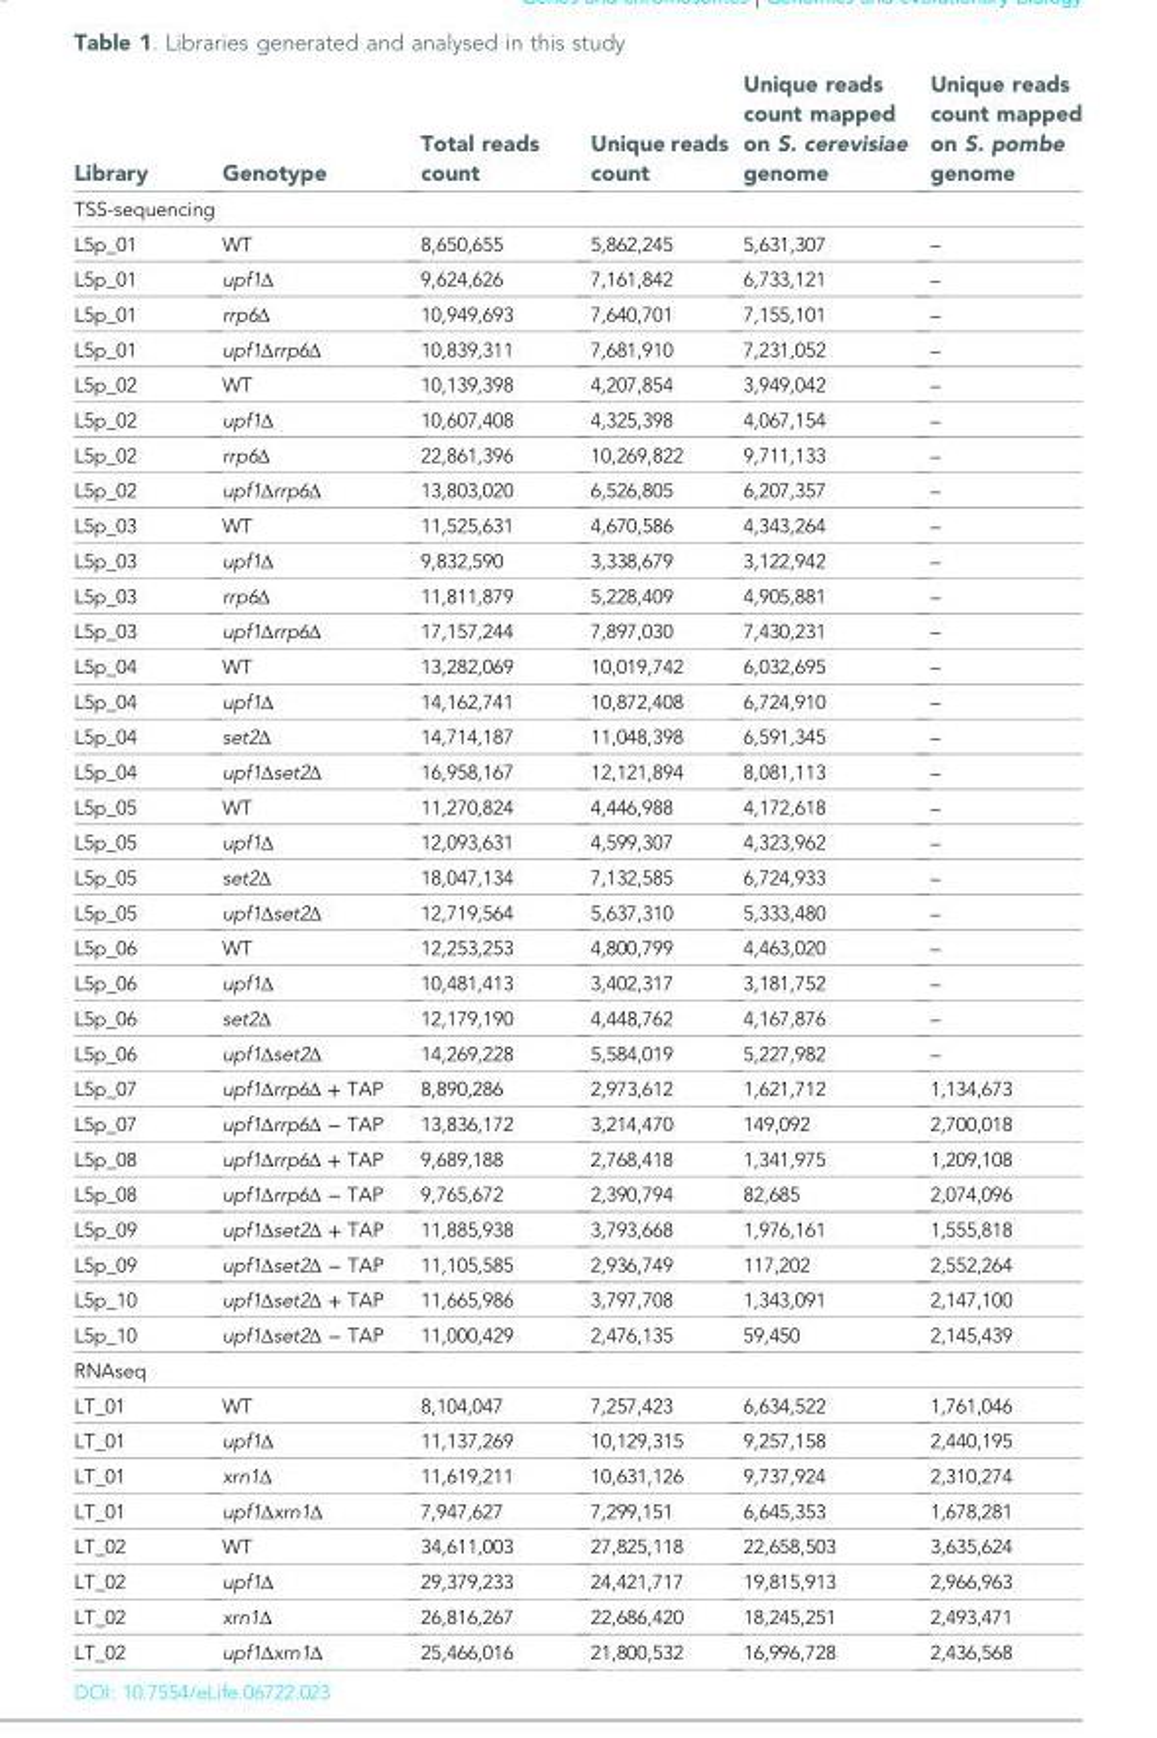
<table><thead><tr><td>Library</td><td>Genotype</td><td>Total reads count</td><td>Unique reads count</td><td>Unique reads count mapped on S. cerevisiae genome</td><td>Unique reads count mapped on S. pombe genome</td></tr></thead><tbody><tr><td colspan="6">TSS-sequencing</td></tr><tr><td>L5p_01</td><td>WT</td><td>8,650,655</td><td>5,862,245</td><td>5,631,307</td><td>–</td></tr><tr><td>L5p_01</td><td>upf1Δ</td><td>9,624,626</td><td>7,161,842</td><td>6,733,121</td><td>–</td></tr><tr><td>L5p_01</td><td>rrp6Δ</td><td>10,949,693</td><td>7,640,701</td><td>7,155,101</td><td>–</td></tr><tr><td>L5p_01</td><td>upf1Δrrp6Δ</td><td>10,839,311</td><td>7,681,910</td><td>7,231,052</td><td>–</td></tr><tr><td>L5p_02</td><td>WT</td><td>10,139,398</td><td>4,207,854</td><td>3,949,042</td><td>–</td></tr><tr><td>L5p_02</td><td>upf1Δ</td><td>10,607,408</td><td>4,325,398</td><td>4,067,154</td><td>–</td></tr><tr><td>L5p_02</td><td>rrp6Δ</td><td>22,861,396</td><td>10,269,822</td><td>9,711,133</td><td>–</td></tr><tr><td>L5p_02</td><td>upf1Δrrp6Δ</td><td>13,803,020</td><td>6,526,805</td><td>6,207,357</td><td>–</td></tr><tr><td>L5p_03</td><td>WT</td><td>11,525,631</td><td>4,670,586</td><td>4,343,264</td><td>–</td></tr><tr><td>L5p_03</td><td>upf1Δ</td><td>9,832,590</td><td>3,338,679</td><td>3,122,942</td><td>–</td></tr><tr><td>L5p_03</td><td>rrp6Δ</td><td>11,811,879</td><td>5,228,409</td><td>4,905,881</td><td>–</td></tr><tr><td>L5p_03</td><td>upf1Δrrp6Δ</td><td>17,157,244</td><td>7,897,030</td><td>7,430,231</td><td>–</td></tr><tr><td>L5p_04</td><td>WT</td><td>13,282,069</td><td>10,019,742</td><td>6,032,695</td><td>–</td></tr><tr><td>L5p_04</td><td>upf1Δ</td><td>14,162,741</td><td>10,872,408</td><td>6,724,910</td><td>–</td></tr><tr><td>L5p_04</td><td>set2Δ</td><td>14,714,187</td><td>11,048,398</td><td>6,591,345</td><td>–</td></tr><tr><td>L5p_04</td><td>upf1Δset2Δ</td><td>16,958,167</td><td>12,121,894</td><td>8,081,113</td><td>–</td></tr><tr><td>L5p_05</td><td>WT</td><td>11,270,824</td><td>4,446,988</td><td>4,172,618</td><td>–</td></tr><tr><td>L5p_05</td><td>upf1Δ</td><td>12,093,631</td><td>4,599,307</td><td>4,323,962</td><td>–</td></tr><tr><td>L5p_05</td><td>set2Δ</td><td>18,047,134</td><td>7,132,585</td><td>6,724,933</td><td>–</td></tr><tr><td>L5p_05</td><td>upf1Δset2Δ</td><td>12,719,564</td><td>5,637,310</td><td>5,333,480</td><td>–</td></tr><tr><td>L5p_06</td><td>WT</td><td>12,253,253</td><td>4,800,799</td><td>4,463,020</td><td>–</td></tr><tr><td>L5p_06</td><td>upf1Δ</td><td>10,481,413</td><td>3,402,317</td><td>3,181,752</td><td>–</td></tr><tr><td>L5p_06</td><td>set2Δ</td><td>12,179,190</td><td>4,448,762</td><td>4,167,876</td><td>–</td></tr><tr><td>L5p_06</td><td>upf1Δset2Δ</td><td>14,269,228</td><td>5,584,019</td><td>5,227,982</td><td>–</td></tr><tr><td>L5p_07</td><td>upf1Δrrp6Δ + TAP</td><td>8,890,286</td><td>2,973,612</td><td>1,621,712</td><td>1,134,673</td></tr><tr><td>L5p_07</td><td>upf1Δrrp6Δ − TAP</td><td>13,836,172</td><td>3,214,470</td><td>149,092</td><td>2,700,018</td></tr><tr><td>L5p_08</td><td>upf1Δrrp6Δ + TAP</td><td>9,689,188</td><td>2,768,418</td><td>1,341,975</td><td>1,209,108</td></tr><tr><td>L5p_08</td><td>upf1Δrrp6Δ − TAP</td><td>9,765,672</td><td>2,390,794</td><td>82,685</td><td>2,074,096</td></tr><tr><td>L5p_09</td><td>upf1Δset2Δ + TAP</td><td>11,885,938</td><td>3,793,668</td><td>1,976,161</td><td>1,555,818</td></tr><tr><td>L5p_09</td><td>upf1Δset2Δ − TAP</td><td>11,105,585</td><td>2,936,749</td><td>117,202</td><td>2,552,264</td></tr><tr><td>L5p_10</td><td>upf1Δset2Δ + TAP</td><td>11,665,986</td><td>3,797,708</td><td>1,343,091</td><td>2,147,100</td></tr><tr><td>L5p_10</td><td>upf1Δset2Δ − TAP</td><td>11,000,429</td><td>2,476,135</td><td>59,450</td><td>2,145,439</td></tr><tr><td colspan="6">RNAseq</td></tr><tr><td>LT_01</td><td>WT</td><td>8,104,047</td><td>7,257,423</td><td>6,634,522</td><td>1,761,046</td></tr><tr><td>LT_01</td><td>upf1Δ</td><td>11,137,269</td><td>10,129,315</td><td>9,257,158</td><td>2,440,195</td></tr><tr><td>LT_01</td><td>xrn1Δ</td><td>11,619,211</td><td>10,631,126</td><td>9,737,924</td><td>2,310,274</td></tr><tr><td>LT_01</td><td>upf1Δxrn1Δ</td><td>7,947,627</td><td>7,299,151</td><td>6,645,353</td><td>1,678,281</td></tr><tr><td>LT_02</td><td>WT</td><td>34,611,003</td><td>27,825,118</td><td>22,658,503</td><td>3,635,624</td></tr><tr><td>LT_02</td><td>upf1Δ</td><td>29,379,233</td><td>24,421,717</td><td>19,815,913</td><td>2,966,963</td></tr><tr><td>LT_02</td><td>xrn1Δ</td><td>26,816,267</td><td>22,686,420</td><td>18,245,251</td><td>2,493,471</td></tr><tr><td>LT_02</td><td>upf1Δxrn1Δ</td><td>25,466,016</td><td>21,800,532</td><td>16,996,728</td><td>2,436,568</td></tr></tbody></table>